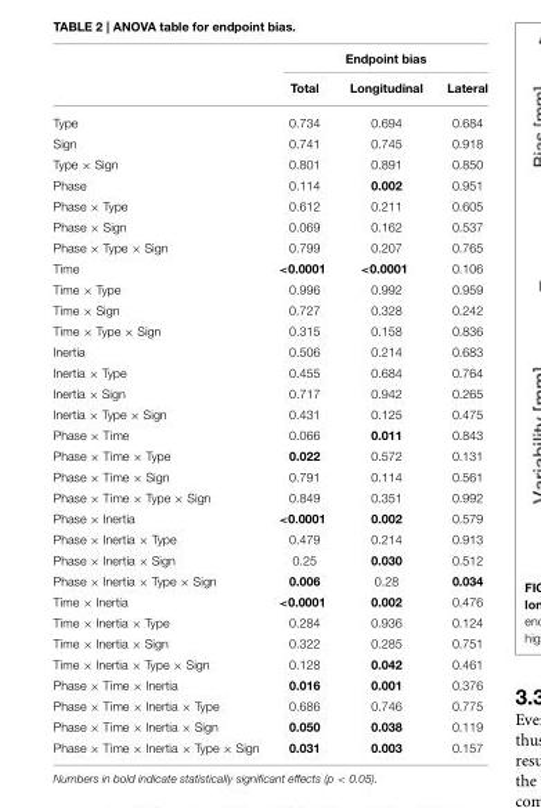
<table><thead><tr><td rowspan="2"></td><td colspan="3">Endpoint bias</td></tr><tr><td>Total</td><td>Longitudinal</td><td>Lateral</td></tr></thead><tbody><tr><td>Type</td><td>0.734</td><td>0.694</td><td>0.684</td></tr><tr><td>Sign</td><td>0.741</td><td>0.745</td><td>0.918</td></tr><tr><td>Type × Sign</td><td>0.801</td><td>0.891</td><td>0.850</td></tr><tr><td>Phase</td><td>0.114</td><td>0.002</td><td>0.951</td></tr><tr><td>Phase × Type</td><td>0.612</td><td>0.211</td><td>0.605</td></tr><tr><td>Phase × Sign</td><td>0.069</td><td>0.162</td><td>0.537</td></tr><tr><td>Phase × Type × Sign</td><td>0.799</td><td>0.207</td><td>0.765</td></tr><tr><td>Time</td><td>&lt;0.0001</td><td>&lt;0.0001</td><td>0.106</td></tr><tr><td>Time × Type</td><td>0.996</td><td>0.992</td><td>0.959</td></tr><tr><td>Time × Sign</td><td>0.727</td><td>0.328</td><td>0.242</td></tr><tr><td>Time × Type × Sign</td><td>0.315</td><td>0.158</td><td>0.836</td></tr><tr><td>Inertia</td><td>0.506</td><td>0.214</td><td>0.683</td></tr><tr><td>Inertia × Type</td><td>0.455</td><td>0.684</td><td>0.764</td></tr><tr><td>Inertia × Sign</td><td>0.717</td><td>0.942</td><td>0.265</td></tr><tr><td>Inertia × Type × Sign</td><td>0.431</td><td>0.125</td><td>0.475</td></tr><tr><td>Phase × Time</td><td>0.066</td><td>0.011</td><td>0.843</td></tr><tr><td>Phase × Time × Type</td><td>0.022</td><td>0.572</td><td>0.131</td></tr><tr><td>Phase × Time × Sign</td><td>0.791</td><td>0.114</td><td>0.561</td></tr><tr><td>Phase × Time × Type × Sign</td><td>0.849</td><td>0.351</td><td>0.992</td></tr><tr><td>Phase × Inertia</td><td>&lt;0.0001</td><td>0.002</td><td>0.579</td></tr><tr><td>Phase × Inertia × Type</td><td>0.479</td><td>0.214</td><td>0.913</td></tr><tr><td>Phase × Inertia × Sign</td><td>0.25</td><td>0.030</td><td>0.512</td></tr><tr><td>Phase × Inertia × Type × Sign</td><td>0.006</td><td>0.28</td><td>0.034</td></tr><tr><td>Time × Inertia</td><td>&lt;0.0001</td><td>0.002</td><td>0.476</td></tr><tr><td>Time × Inertia × Type</td><td>0.284</td><td>0.936</td><td>0.124</td></tr><tr><td>Time × Inertia × Sign</td><td>0.322</td><td>0.285</td><td>0.751</td></tr><tr><td>Time × Inertia × Type × Sign</td><td>0.128</td><td>0.042</td><td>0.461</td></tr><tr><td>Phase × Time × Inertia</td><td>0.016</td><td>0.001</td><td>0.376</td></tr><tr><td>Phase × Time × Inertia × Type</td><td>0.686</td><td>0.746</td><td>0.775</td></tr><tr><td>Phase × Time × Inertia × Sign</td><td>0.050</td><td>0.038</td><td>0.119</td></tr><tr><td>Phase × Time × Inertia × Type × Sign</td><td>0.031</td><td>0.003</td><td>0.157</td></tr></tbody></table>